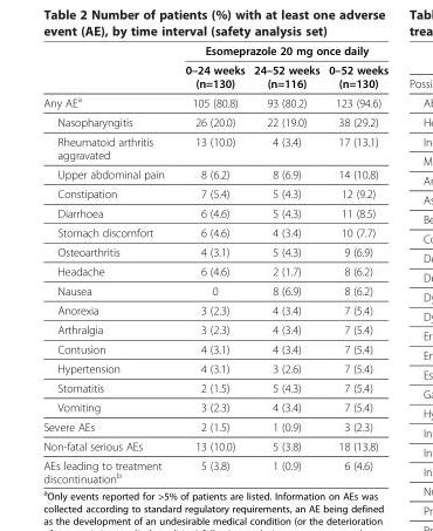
<table><thead><tr><td rowspan="2"></td><td colspan="3">Esomeprazole 20 mg once daily</td></tr><tr><td>0–24 weeks (n=130)</td><td>24–52 weeks (n=116)</td><td>0–52 weeks (n=130)</td></tr></thead><tbody><tr><td>Any AE<sup>a</sup></td><td>105 (80.8)</td><td>93 (80.2)</td><td>123 (94.6)</td></tr><tr><td>Nasopharyngitis</td><td>26 (20.0)</td><td>22 (19.0)</td><td>38 (29.2)</td></tr><tr><td>Rheumatoid arthritis aggravated</td><td>13 (10.0)</td><td>4 (3.4)</td><td>17 (13.1)</td></tr><tr><td>Upper abdominal pain</td><td>8 (6.2)</td><td>8 (6.9)</td><td>14 (10.8)</td></tr><tr><td>Constipation</td><td>7 (5.4)</td><td>5 (4.3)</td><td>12 (9.2)</td></tr><tr><td>Diarrhoea</td><td>6 (4.6)</td><td>5 (4.3)</td><td>11 (8.5)</td></tr><tr><td>Stomach discomfort</td><td>6 (4.6)</td><td>4 (3.4)</td><td>10 (7.7)</td></tr><tr><td>Osteoarthritis</td><td>4 (3.1)</td><td>5 (4.3)</td><td>9 (6.9)</td></tr><tr><td>Headache</td><td>6 (4.6)</td><td>2 (1.7)</td><td>8 (6.2)</td></tr><tr><td>Nausea</td><td>0</td><td>8 (6.9)</td><td>8 (6.2)</td></tr><tr><td>Anorexia</td><td>3 (2.3)</td><td>4 (3.4)</td><td>7 (5.4)</td></tr><tr><td>Arthralgia</td><td>3 (2.3)</td><td>4 (3.4)</td><td>7 (5.4)</td></tr><tr><td>Contusion</td><td>4 (3.1)</td><td>4 (3.4)</td><td>7 (5.4)</td></tr><tr><td>Hypertension</td><td>4 (3.1)</td><td>3 (2.6)</td><td>7 (5.4)</td></tr><tr><td>Stomatitis</td><td>2 (1.5)</td><td>5 (4.3)</td><td>7 (5.4)</td></tr><tr><td>Vomiting</td><td>3 (2.3)</td><td>4 (3.4)</td><td>7 (5.4)</td></tr><tr><td>Severe AEs</td><td>2 (1.5)</td><td>1 (0.9)</td><td>3 (2.3)</td></tr><tr><td>Non-fatal serious AEs</td><td>13 (10.0)</td><td>5 (3.8)</td><td>18 (13.8)</td></tr><tr><td>AEs leading to treatment discontinuation<sup>b</sup></td><td>5 (3.8)</td><td>1 (0.9)</td><td>6 (4.6)</td></tr></tbody></table>